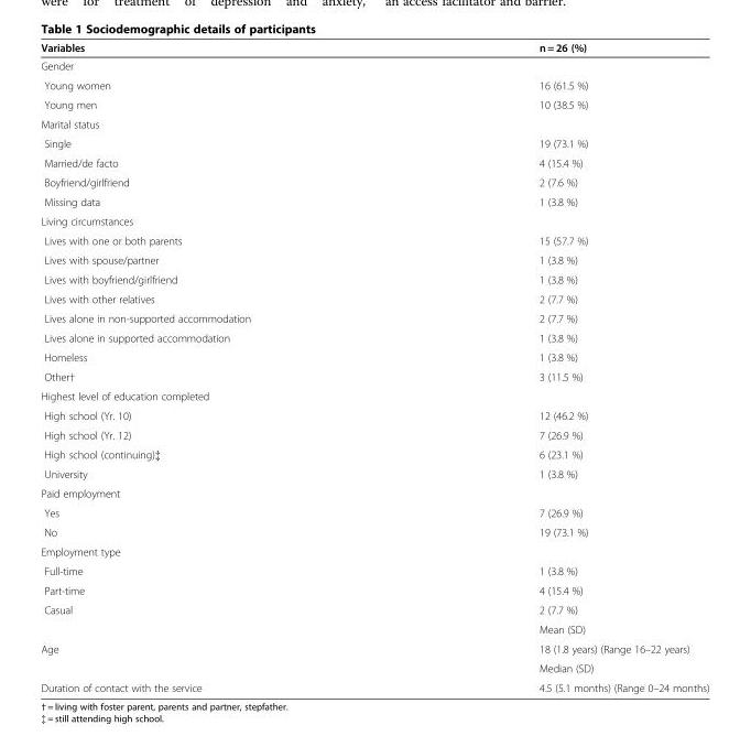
<table><thead><tr><td>Variables</td><td>n = 26 (%)</td></tr></thead><tbody><tr><td colspan="2">Gender</td></tr><tr><td>Young women</td><td>16 (61.5 %)</td></tr><tr><td>Young men</td><td>10 (38.5 %)</td></tr><tr><td colspan="2">Marital status</td></tr><tr><td>Single</td><td>19 (73.1 %)</td></tr><tr><td>Married/de facto</td><td>4 (15.4 %)</td></tr><tr><td>Boyfriend/girlfriend</td><td>2 (7.6 %)</td></tr><tr><td>Missing data</td><td>1 (3.8 %)</td></tr><tr><td colspan="2">Living circumstances</td></tr><tr><td>Lives with one or both parents</td><td>15 (57.7 %)</td></tr><tr><td>Lives with spouse/partner</td><td>1 (3.8 %)</td></tr><tr><td>Lives with boyfriend/girlfriend</td><td>1 (3.8 %)</td></tr><tr><td>Lives with other relatives</td><td>2 (7.7 %)</td></tr><tr><td>Lives alone in non-supported accommodation</td><td>2 (7.7 %)</td></tr><tr><td>Lives alone in supported accommodation</td><td>1 (3.8 %)</td></tr><tr><td>Homeless</td><td>1 (3.8 %)</td></tr><tr><td>Other†</td><td>3 (11.5 %)</td></tr><tr><td colspan="2">Highest level of education completed</td></tr><tr><td>High school (Yr. 10)</td><td>12 (46.2 %)</td></tr><tr><td>High school (Yr. 12)</td><td>7 (26.9 %)</td></tr><tr><td>High school (continuing)‡</td><td>6 (23.1 %)</td></tr><tr><td>University</td><td>1 (3.8 %)</td></tr><tr><td colspan="2">Paid employment</td></tr><tr><td>Yes</td><td>7 (26.9 %)</td></tr><tr><td>No</td><td>19 (73.1 %)</td></tr><tr><td colspan="2">Employment type</td></tr><tr><td>Full-time</td><td>1 (3.8 %)</td></tr><tr><td>Part-time</td><td>4 (15.4 %)</td></tr><tr><td rowspan="2">Casual</td><td>2 (7.7 %)</td></tr><tr><td>Mean (SD)</td></tr><tr><td rowspan="2">Age</td><td>18 (1.8 years) (Range 16–22 years)</td></tr><tr><td>Median (SD)</td></tr><tr><td>Duration of contact with the service</td><td>4.5 (5.1 months) (Range 0–24 months)</td></tr></tbody></table>